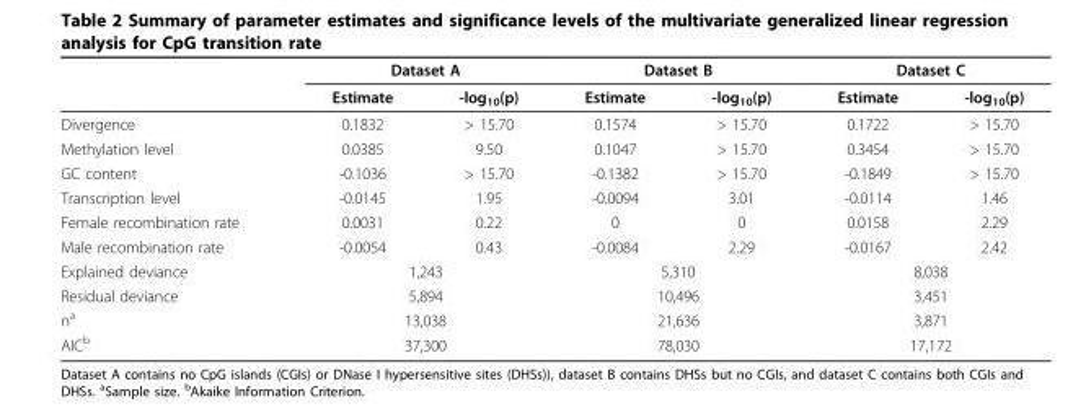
<table><thead><tr><td rowspan="2"></td><td colspan="2">Dataset A</td><td colspan="2">Dataset B</td><td colspan="2">Dataset C</td></tr><tr><td>Estimate</td><td>-log<sub>10</sub>(p)</td><td>Estimate</td><td>-log<sub>10</sub>(p)</td><td>Estimate</td><td>-log<sub>10</sub>(p)</td></tr></thead><tbody><tr><td>Divergence</td><td>0.1832</td><td>&gt; 15.70</td><td>0.1574</td><td>&gt; 15.70</td><td>0.1722</td><td>&gt; 15.70</td></tr><tr><td>Methylation level</td><td>0.0385</td><td>9.50</td><td>0.1047</td><td>&gt; 15.70</td><td>0.3454</td><td>&gt; 15.70</td></tr><tr><td>GC content</td><td>-0.1036</td><td>&gt; 15.70</td><td>-0.1382</td><td>&gt; 15.70</td><td>-0.1849</td><td>&gt; 15.70</td></tr><tr><td>Transcription level</td><td>-0.0145</td><td>1.95</td><td>-0.0094</td><td>3.01</td><td>-0.0114</td><td>1.46</td></tr><tr><td>Female recombination rate</td><td>0.0031</td><td>0.22</td><td>0</td><td>0</td><td>0.0158</td><td>2.29</td></tr><tr><td>Male recombination rate</td><td>-0.0054</td><td>0.43</td><td>-0.0084</td><td>2.29</td><td>-0.0167</td><td>2.42</td></tr><tr><td>Explained deviance</td><td colspan="2">1,243</td><td colspan="2">5,310</td><td colspan="2">8,038</td></tr><tr><td>Residual deviance</td><td colspan="2">5,894</td><td colspan="2">10,496</td><td colspan="2">3,451</td></tr><tr><td>n<sup>a</sup></td><td colspan="2">13,038</td><td colspan="2">21,636</td><td colspan="2">3,871</td></tr><tr><td>AIC<sup>b</sup></td><td colspan="2">37,300</td><td colspan="2">78,030</td><td colspan="2">17,172</td></tr></tbody></table>